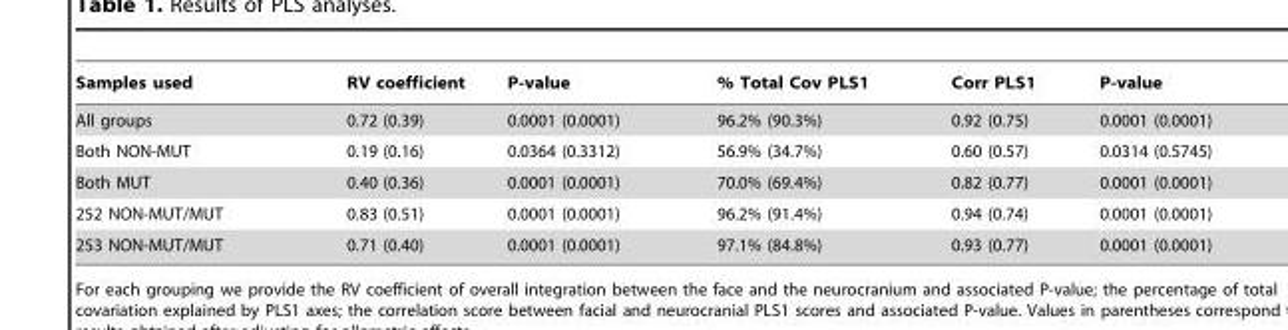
<table><thead><tr><td>Samples used</td><td>RV coefficient</td><td>P-value</td><td>% Total Cov PLS1</td><td>Corr PLS1</td><td>P-value</td></tr></thead><tbody><tr><td>All groups</td><td>0.72 (0.39)</td><td>0.0001 (0.0001)</td><td>96.2% (90.3%)</td><td>0.92 (0.75)</td><td>0.0001 (0.0001)</td></tr><tr><td>Both NON-MUT</td><td>0.19 (0.16)</td><td>0.0364 (0.3312)</td><td>56.9% (34.7%)</td><td>0.60 (0.57)</td><td>0.0314 (0.5745)</td></tr><tr><td>Both MUT</td><td>0.40 (0.36)</td><td>0.0001 (0.0001)</td><td>70.0% (69.4%)</td><td>0.82 (0.77)</td><td>0.0001 (0.0001)</td></tr><tr><td>252 NON-MUT/MUT</td><td>0.83 (0.51)</td><td>0.0001 (0.0001)</td><td>96.2% (91.4%)</td><td>0.94 (0.74)</td><td>0.0001 (0.0001)</td></tr><tr><td>253 NON-MUT/MUT</td><td>0.71 (0.40)</td><td>0.0001 (0.0001)</td><td>97.1% (84.8%)</td><td>0.93 (0.77)</td><td>0.0001 (0.0001)</td></tr></tbody></table>